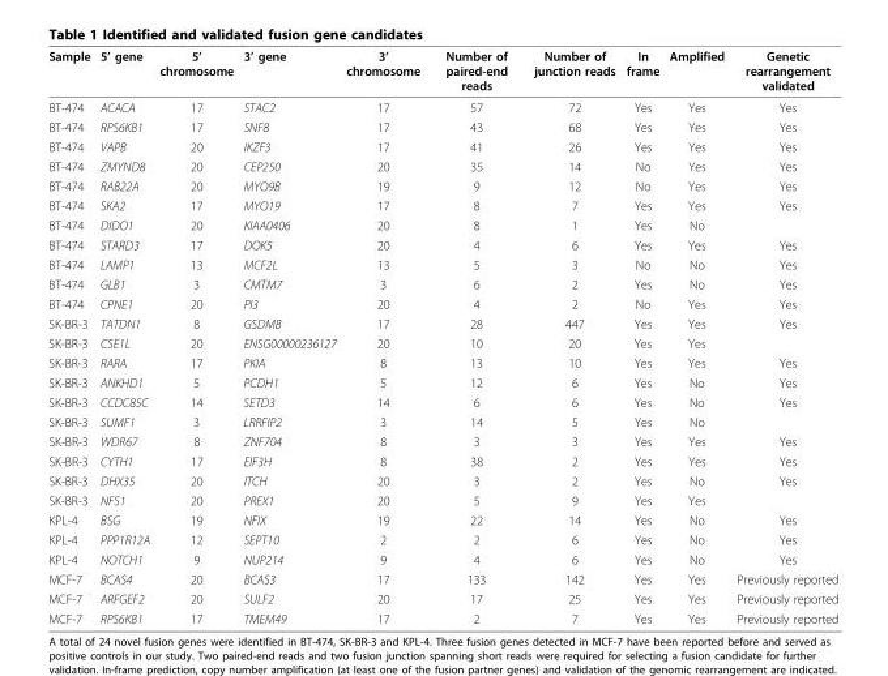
<table><thead><tr><td>Sample</td><td>5’ gene</td><td>5’ chromosome</td><td>3’ gene</td><td>3’ chromosome</td><td>Number of paired-end reads</td><td>Number of junction reads</td><td>In frame</td><td>Amplified</td><td>Genetic rearrangement validated</td></tr></thead><tbody><tr><td>BT-474</td><td>ACACA</td><td>17</td><td>STAC2</td><td>17</td><td>57</td><td>72</td><td>Yes</td><td>Yes</td><td>Yes</td></tr><tr><td>BT-474</td><td>RPS6KB1</td><td>17</td><td>SNF8</td><td>17</td><td>43</td><td>68</td><td>Yes</td><td>Yes</td><td>Yes</td></tr><tr><td>BT-474</td><td>VAPB</td><td>20</td><td>IKZF3</td><td>17</td><td>41</td><td>26</td><td>Yes</td><td>Yes</td><td>Yes</td></tr><tr><td>BT-474</td><td>ZMYND8</td><td>20</td><td>CEP250</td><td>20</td><td>35</td><td>14</td><td>No</td><td>Yes</td><td>Yes</td></tr><tr><td>BT-474</td><td>RAB22A</td><td>20</td><td>MYO9B</td><td>19</td><td>9</td><td>12</td><td>No</td><td>Yes</td><td>Yes</td></tr><tr><td>BT-474</td><td>SKA2</td><td>17</td><td>MYO19</td><td>17</td><td>8</td><td>7</td><td>Yes</td><td>Yes</td><td>Yes</td></tr><tr><td>BT-474</td><td>DIDO1</td><td>20</td><td>KIAA0406</td><td>20</td><td>8</td><td>1</td><td>Yes</td><td>No</td><td></td></tr><tr><td>BT-474</td><td>STARD3</td><td>17</td><td>DOK5</td><td>20</td><td>4</td><td>6</td><td>Yes</td><td>Yes</td><td>Yes</td></tr><tr><td>BT-474</td><td>LAMP1</td><td>13</td><td>MCF2L</td><td>13</td><td>5</td><td>3</td><td>No</td><td>No</td><td>Yes</td></tr><tr><td>BT-474</td><td>GLB1</td><td>3</td><td>CMTM7</td><td>3</td><td>6</td><td>2</td><td>Yes</td><td>No</td><td>Yes</td></tr><tr><td>BT-474</td><td>CPNE1</td><td>20</td><td>PI3</td><td>20</td><td>4</td><td>2</td><td>No</td><td>Yes</td><td>Yes</td></tr><tr><td>SK-BR-3</td><td>TATDN1</td><td>8</td><td>GSDMB</td><td>17</td><td>28</td><td>447</td><td>Yes</td><td>Yes</td><td>Yes</td></tr><tr><td>SK-BR-3</td><td>CSE1L</td><td>20</td><td>ENSG00000236127</td><td>20</td><td>10</td><td>20</td><td>Yes</td><td>Yes</td><td></td></tr><tr><td>SK-BR-3</td><td>RARA</td><td>17</td><td>PKIA</td><td>8</td><td>13</td><td>10</td><td>Yes</td><td>Yes</td><td>Yes</td></tr><tr><td>SK-BR-3</td><td>ANKHD1</td><td>5</td><td>PCDH1</td><td>5</td><td>12</td><td>6</td><td>Yes</td><td>No</td><td>Yes</td></tr><tr><td>SK-BR-3</td><td>CCDC85C</td><td>14</td><td>SETD3</td><td>14</td><td>6</td><td>6</td><td>Yes</td><td>No</td><td>Yes</td></tr><tr><td>SK-BR-3</td><td>SUMF1</td><td>3</td><td>LRRFIP2</td><td>3</td><td>14</td><td>5</td><td>Yes</td><td>No</td><td></td></tr><tr><td>SK-BR-3</td><td>WDR67</td><td>8</td><td>ZNF704</td><td>8</td><td>3</td><td>3</td><td>Yes</td><td>Yes</td><td>Yes</td></tr><tr><td>SK-BR-3</td><td>CYTH1</td><td>17</td><td>EIF3H</td><td>8</td><td>38</td><td>2</td><td>Yes</td><td>Yes</td><td>Yes</td></tr><tr><td>SK-BR-3</td><td>DHX35</td><td>20</td><td>ITCH</td><td>20</td><td>3</td><td>2</td><td>Yes</td><td>No</td><td>Yes</td></tr><tr><td>SK-BR-3</td><td>NFS1</td><td>20</td><td>PREX1</td><td>20</td><td>5</td><td>9</td><td>Yes</td><td>Yes</td><td></td></tr><tr><td>KPL-4</td><td>BSG</td><td>19</td><td>NFIX</td><td>19</td><td>22</td><td>14</td><td>Yes</td><td>No</td><td>Yes</td></tr><tr><td>KPL-4</td><td>PPP1R12A</td><td>12</td><td>SEPT10</td><td>2</td><td>2</td><td>6</td><td>Yes</td><td>No</td><td>Yes</td></tr><tr><td>KPL-4</td><td>NOTCH1</td><td>9</td><td>NUP214</td><td>9</td><td>4</td><td>6</td><td>Yes</td><td>No</td><td>Yes</td></tr><tr><td>MCF-7</td><td>BCAS4</td><td>20</td><td>BCAS3</td><td>17</td><td>133</td><td>142</td><td>Yes</td><td>Yes</td><td>Previously reported</td></tr><tr><td>MCF-7</td><td>ARFGEF2</td><td>20</td><td>SULF2</td><td>20</td><td>17</td><td>25</td><td>Yes</td><td>Yes</td><td>Previously reported</td></tr><tr><td>MCF-7</td><td>RPS6KB1</td><td>17</td><td>TMEM49</td><td>17</td><td>2</td><td>7</td><td>Yes</td><td>Yes</td><td>Previously reported</td></tr></tbody></table>